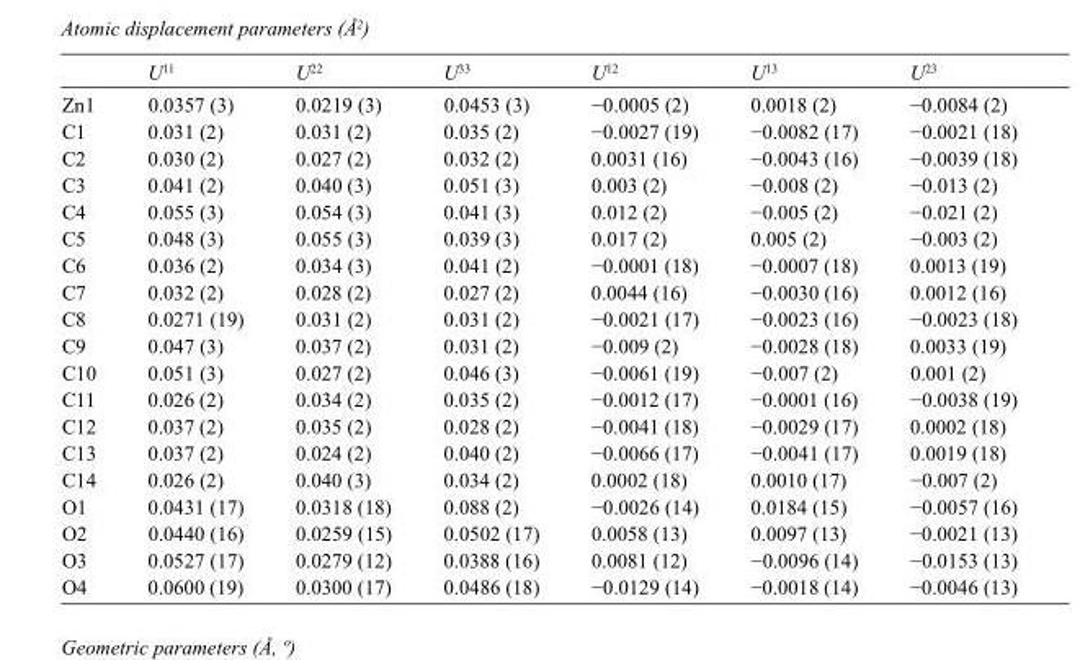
<table><thead><tr><td></td><td>U<sup>11</sup></td><td>U<sup>22</sup></td><td>U<sup>33</sup></td><td>U<sup>12</sup></td><td>U<sup>13</sup></td><td>U<sup>23</sup></td></tr></thead><tbody><tr><td>Zn1</td><td>0.0357 (3)</td><td>0.0219 (3)</td><td>0.0453 (3)</td><td>−0.0005 (2)</td><td>0.0018 (2)</td><td>−0.0084 (2)</td></tr><tr><td>C1</td><td>0.031 (2)</td><td>0.031 (2)</td><td>0.035 (2)</td><td>−0.0027 (19)</td><td>−0.0082 (17)</td><td>−0.0021 (18)</td></tr><tr><td>C2</td><td>0.030 (2)</td><td>0.027 (2)</td><td>0.032 (2)</td><td>0.0031 (16)</td><td>−0.0043 (16)</td><td>−0.0039 (18)</td></tr><tr><td>C3</td><td>0.041 (2)</td><td>0.040 (3)</td><td>0.051 (3)</td><td>0.003 (2)</td><td>−0.008 (2)</td><td>−0.013 (2)</td></tr><tr><td>C4</td><td>0.055 (3)</td><td>0.054 (3)</td><td>0.041 (3)</td><td>0.012 (2)</td><td>−0.005 (2)</td><td>−0.021 (2)</td></tr><tr><td>C5</td><td>0.048 (3)</td><td>0.055 (3)</td><td>0.039 (3)</td><td>0.017 (2)</td><td>0.005 (2)</td><td>−0.003 (2)</td></tr><tr><td>C6</td><td>0.036 (2)</td><td>0.034 (3)</td><td>0.041 (2)</td><td>−0.0001 (18)</td><td>−0.0007 (18)</td><td>0.0013 (19)</td></tr><tr><td>C7</td><td>0.032 (2)</td><td>0.028 (2)</td><td>0.027 (2)</td><td>0.0044 (16)</td><td>−0.0030 (16)</td><td>0.0012 (16)</td></tr><tr><td>C8</td><td>0.0271 (19)</td><td>0.031 (2)</td><td>0.031 (2)</td><td>−0.0021 (17)</td><td>−0.0023 (16)</td><td>−0.0023 (18)</td></tr><tr><td>C9</td><td>0.047 (3)</td><td>0.037 (2)</td><td>0.031 (2)</td><td>−0.009 (2)</td><td>−0.0028 (18)</td><td>0.0033 (19)</td></tr><tr><td>C10</td><td>0.051 (3)</td><td>0.027 (2)</td><td>0.046 (3)</td><td>−0.0061 (19)</td><td>−0.007 (2)</td><td>0.001 (2)</td></tr><tr><td>C11</td><td>0.026 (2)</td><td>0.034 (2)</td><td>0.035 (2)</td><td>−0.0012 (17)</td><td>−0.0001 (16)</td><td>−0.0038 (19)</td></tr><tr><td>C12</td><td>0.037 (2)</td><td>0.035 (2)</td><td>0.028 (2)</td><td>−0.0041 (18)</td><td>−0.0029 (17)</td><td>0.0002 (18)</td></tr><tr><td>C13</td><td>0.037 (2)</td><td>0.024 (2)</td><td>0.040 (2)</td><td>−0.0066 (17)</td><td>−0.0041 (17)</td><td>0.0019 (18)</td></tr><tr><td>C14</td><td>0.026 (2)</td><td>0.040 (3)</td><td>0.034 (2)</td><td>0.0002 (18)</td><td>0.0010 (17)</td><td>−0.007 (2)</td></tr><tr><td>O1</td><td>0.0431 (17)</td><td>0.0318 (18)</td><td>0.088 (2)</td><td>−0.0026 (14)</td><td>0.0184 (15)</td><td>−0.0057 (16)</td></tr><tr><td>O2</td><td>0.0440 (16)</td><td>0.0259 (15)</td><td>0.0502 (17)</td><td>0.0058 (13)</td><td>0.0097 (13)</td><td>−0.0021 (13)</td></tr><tr><td>O3</td><td>0.0527 (17)</td><td>0.0279 (12)</td><td>0.0388 (16)</td><td>0.0081 (12)</td><td>−0.0096 (14)</td><td>−0.0153 (13)</td></tr><tr><td>O4</td><td>0.0600 (19)</td><td>0.0300 (17)</td><td>0.0486 (18)</td><td>−0.0129 (14)</td><td>−0.0018 (14)</td><td>−0.0046 (13)</td></tr></tbody></table>